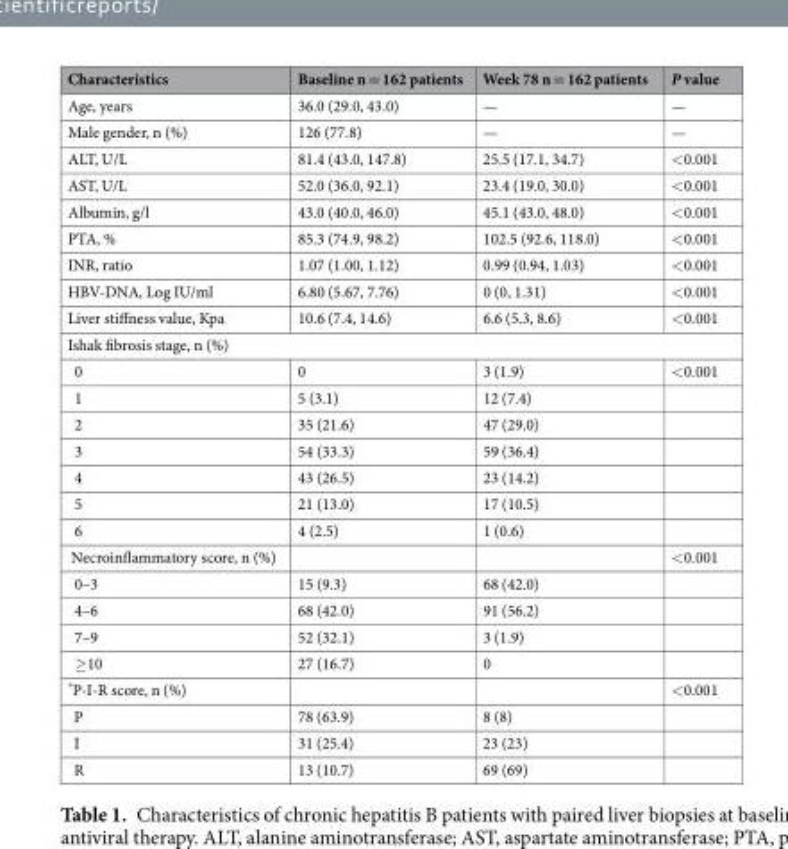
<table><thead><tr><td>Characteristics</td><td>Baseline n = 162 patients</td><td>Week 78 n = 162 patients</td><td>P value</td></tr></thead><tbody><tr><td>Age, years</td><td>36.0 (29.0, 43.0)</td><td>—</td><td>—</td></tr><tr><td>Male gender, n (%)</td><td>126 (77.8)</td><td>—</td><td>—</td></tr><tr><td>ALT, U/L</td><td>81.4 (43.0, 147.8)</td><td>25.5 (17.1, 34.7)</td><td>&lt;0.001</td></tr><tr><td>AST, U/L</td><td>52.0 (36.0, 92.1)</td><td>23.4 (19.0, 30.0)</td><td>&lt;0.001</td></tr><tr><td>Albumin, g/l</td><td>43.0 (40.0, 46.0)</td><td>45.1 (43.0, 48.0)</td><td>&lt;0.001</td></tr><tr><td>PTA, %</td><td>85.3 (74.9, 98.2)</td><td>102.5 (92.6, 118.0)</td><td>&lt;0.001</td></tr><tr><td>INR, ratio</td><td>1.07 (1.00, 1.12)</td><td>0.99 (0.94, 1.03)</td><td>&lt;0.001</td></tr><tr><td>HBV-DNA, Log IU/ml</td><td>6.80 (5.67, 7.76)</td><td>0 (0, 1.31)</td><td>&lt;0.001</td></tr><tr><td>Liver stiffness value, Kpa</td><td>10.6 (7.4, 14.6)</td><td>6.6 (5.3, 8.6)</td><td>&lt;0.001</td></tr><tr><td colspan="4">Ishak fibrosis stage, n (%)</td></tr><tr><td>0</td><td>0</td><td>3 (1.9)</td><td>&lt;0.001</td></tr><tr><td>1</td><td>5 (3.1)</td><td>12 (7.4)</td><td></td></tr><tr><td>2</td><td>35 (21.6)</td><td>47 (29.0)</td><td></td></tr><tr><td>3</td><td>54 (33.3)</td><td>59 (36.4)</td><td></td></tr><tr><td>4</td><td>43 (26.5)</td><td>23 (14.2)</td><td></td></tr><tr><td>5</td><td>21 (13.0)</td><td>17 (10.5)</td><td></td></tr><tr><td>6</td><td>4 (2.5)</td><td>1 (0.6)</td><td></td></tr><tr><td>Necroinflammatory score, n (%)</td><td></td><td></td><td>&lt;0.001</td></tr><tr><td>0–3</td><td>15 (9.3)</td><td>68 (42.0)</td><td></td></tr><tr><td>4–6</td><td>68 (42.0)</td><td>91 (56.2)</td><td></td></tr><tr><td>7–9</td><td>52 (32.1)</td><td>3 (1.9)</td><td></td></tr><tr><td>≥10</td><td>27 (16.7)</td><td>0</td><td></td></tr><tr><td>*P-I-R score, n (%)</td><td></td><td></td><td>&lt;0.001</td></tr><tr><td>P</td><td>78 (63.9)</td><td>8 (8)</td><td></td></tr><tr><td>I</td><td>31 (25.4)</td><td>23 (23)</td><td></td></tr><tr><td>R</td><td>13 (10.7)</td><td>69 (69)</td><td></td></tr></tbody></table>